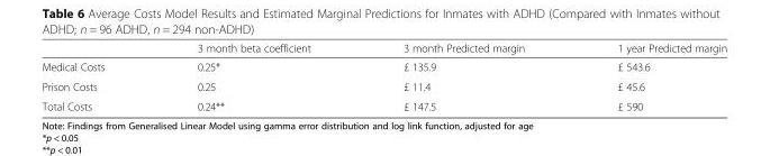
<table><thead><tr><td></td><td>3 month beta coefficient</td><td>3 month Predicted margin</td><td>1 year Predicted margin</td></tr></thead><tbody><tr><td>Medical Costs</td><td>0.25*</td><td>£ 135.9</td><td>£ 543.6</td></tr><tr><td>Prison Costs</td><td>0.25</td><td>£ 11.4</td><td>£ 45.6</td></tr><tr><td>Total Costs</td><td>0.24**</td><td>£ 147.5</td><td>£ 590</td></tr></tbody></table>